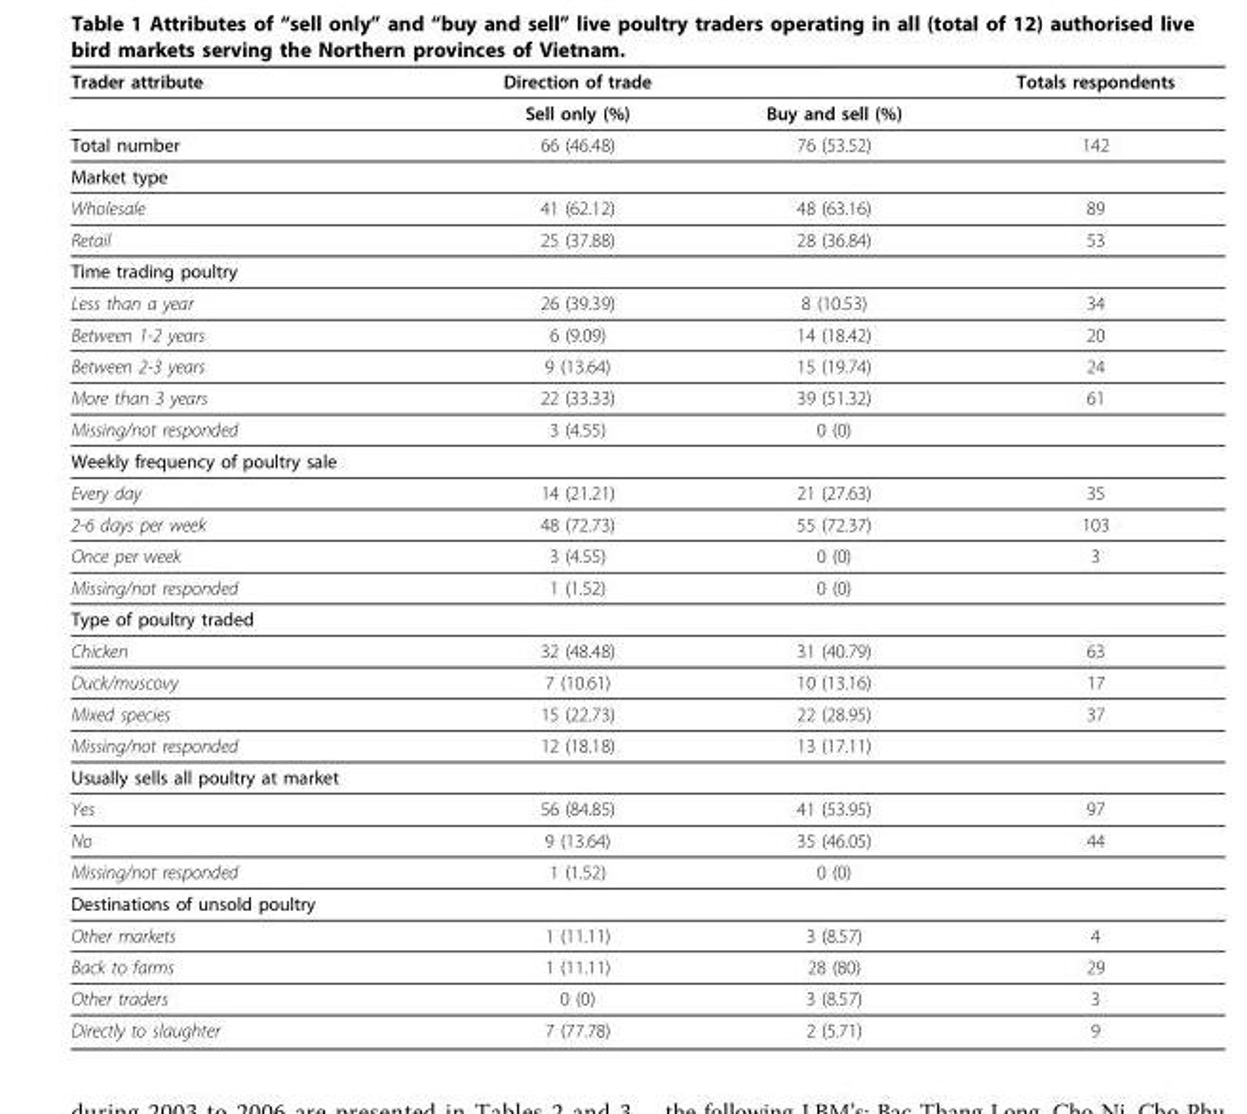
<table><thead><tr><td>Trader attribute</td><td>Direction of trade</td><td></td><td>Totals respondents</td></tr></thead><tbody><tr><td></td><td>Sell only (%)</td><td>Buy and sell (%)</td><td></td></tr><tr><td>Total number</td><td>66 (46.48)</td><td>76 (53.52)</td><td>142</td></tr><tr><td colspan="4">Market type</td></tr><tr><td>Wholesale</td><td>41 (62.12)</td><td>48 (63.16)</td><td>89</td></tr><tr><td>Retail</td><td>25 (37.88)</td><td>28 (36.84)</td><td>53</td></tr><tr><td colspan="4">Time trading poultry</td></tr><tr><td>Less than a year</td><td>26 (39.39)</td><td>8 (10.53)</td><td>34</td></tr><tr><td>Between 1-2 years</td><td>6 (9.09)</td><td>14 (18.42)</td><td>20</td></tr><tr><td>Between 2-3 years</td><td>9 (13.64)</td><td>15 (19.74)</td><td>24</td></tr><tr><td>More than 3 years</td><td>22 (33.33)</td><td>39 (51.32)</td><td>61</td></tr><tr><td>Missing/not responded</td><td>3 (4.55)</td><td>0 (0)</td><td></td></tr><tr><td colspan="4">Weekly frequency of poultry sale</td></tr><tr><td>Every day</td><td>14 (21.21)</td><td>21 (27.63)</td><td>35</td></tr><tr><td>2-6 days per week</td><td>48 (72.73)</td><td>55 (72.37)</td><td>103</td></tr><tr><td>Once per week</td><td>3 (4.55)</td><td>0 (0)</td><td>3</td></tr><tr><td>Missing/not responded</td><td>1 (1.52)</td><td>0 (0)</td><td></td></tr><tr><td colspan="4">Type of poultry traded</td></tr><tr><td>Chicken</td><td>32 (48.48)</td><td>31 (40.79)</td><td>63</td></tr><tr><td>Duck/muscovy</td><td>7 (10.61)</td><td>10 (13.16)</td><td>17</td></tr><tr><td>Mixed species</td><td>15 (22.73)</td><td>22 (28.95)</td><td>37</td></tr><tr><td>Missing/not responded</td><td>12 (18.18)</td><td>13 (17.11)</td><td></td></tr><tr><td colspan="4">Usually sells all poultry at market</td></tr><tr><td>Yes</td><td>56 (84.85)</td><td>41 (53.95)</td><td>97</td></tr><tr><td>No</td><td>9 (13.64)</td><td>35 (46.05)</td><td>44</td></tr><tr><td>Missing/not responded</td><td>1 (1.52)</td><td>0 (0)</td><td></td></tr><tr><td colspan="4">Destinations of unsold poultry</td></tr><tr><td>Other markets</td><td>1 (11.11)</td><td>3 (8.57)</td><td>4</td></tr><tr><td>Back to farms</td><td>1 (11.11)</td><td>28 (80)</td><td>29</td></tr><tr><td>Other traders</td><td>0 (0)</td><td>3 (8.57)</td><td>3</td></tr><tr><td>Directly to slaughter</td><td>7 (77.78)</td><td>2 (5.71)</td><td>9</td></tr></tbody></table>